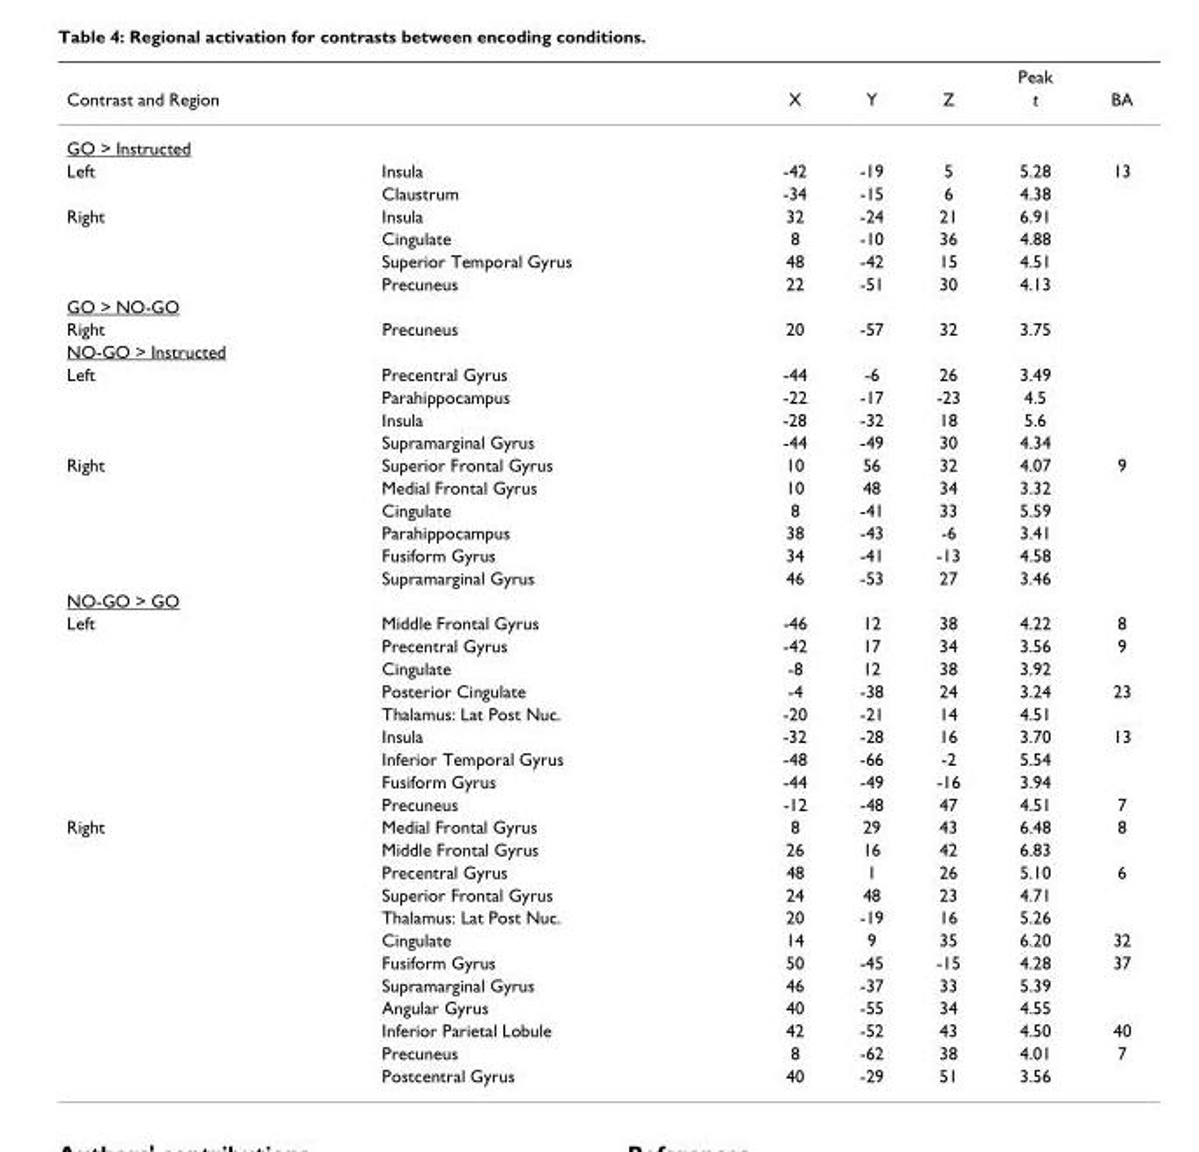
<table><thead><tr><td rowspan="2">Contrast and Region</td><td rowspan="2"></td><td rowspan="2">X</td><td rowspan="2">Y</td><td rowspan="2">Z</td><td rowspan="2">Peak t</td><td rowspan="2">BA</td></tr><tr></tr></thead><tbody><tr><td colspan="7">GO &gt; Instructed</td></tr><tr><td rowspan="2">Left</td><td>Insula</td><td>-42</td><td>-19</td><td>5</td><td>5.28</td><td>13</td></tr><tr><td>Claustrum</td><td>-34</td><td>-15</td><td>6</td><td>4.38</td><td></td></tr><tr><td rowspan="4">Right</td><td>Insula</td><td>32</td><td>-24</td><td>21</td><td>6.91</td><td></td></tr><tr><td>Cingulate</td><td>8</td><td>-10</td><td>36</td><td>4.88</td><td></td></tr><tr><td>Superior Temporal Gyrus</td><td>48</td><td>-42</td><td>15</td><td>4.51</td><td></td></tr><tr><td>Precuneus</td><td>22</td><td>-51</td><td>30</td><td>4.13</td><td></td></tr><tr><td colspan="7">GO &gt; NO-GO</td></tr><tr><td>Right</td><td>Precuneus</td><td>20</td><td>-57</td><td>32</td><td>3.75</td><td></td></tr><tr><td colspan="7">NO-GO &gt; Instructed</td></tr><tr><td rowspan="4">Left</td><td>Precentral Gyrus</td><td>-44</td><td>-6</td><td>26</td><td>3.49</td><td></td></tr><tr><td>Parahippocampus</td><td>-22</td><td>-17</td><td>-23</td><td>4.5</td><td></td></tr><tr><td>Insula</td><td>-28</td><td>-32</td><td>18</td><td>5.6</td><td></td></tr><tr><td>Supramarginal Gyrus</td><td>-44</td><td>-49</td><td>30</td><td>4.34</td><td></td></tr><tr><td rowspan="6">Right</td><td>Superior Frontal Gyrus</td><td>10</td><td>56</td><td>32</td><td>4.07</td><td>9</td></tr><tr><td>Medial Frontal Gyrus</td><td>10</td><td>48</td><td>34</td><td>3.32</td><td></td></tr><tr><td>Cingulate</td><td>8</td><td>-41</td><td>33</td><td>5.59</td><td></td></tr><tr><td>Parahippocampus</td><td>38</td><td>-43</td><td>-6</td><td>3.41</td><td></td></tr><tr><td>Fusiform Gyrus</td><td>34</td><td>-41</td><td>-13</td><td>4.58</td><td></td></tr><tr><td>Supramarginal Gyrus</td><td>46</td><td>-53</td><td>27</td><td>3.46</td><td></td></tr><tr><td colspan="7">NO-GO &gt; GO</td></tr><tr><td rowspan="9">Left</td><td>Middle Frontal Gyrus</td><td>-46</td><td>12</td><td>38</td><td>4.22</td><td>8</td></tr><tr><td>Precentral Gyrus</td><td>-42</td><td>17</td><td>34</td><td>3.56</td><td>9</td></tr><tr><td>Cingulate</td><td>-8</td><td>12</td><td>38</td><td>3.92</td><td></td></tr><tr><td>Posterior Cingulate</td><td>-4</td><td>-38</td><td>24</td><td>3.24</td><td>23</td></tr><tr><td>Thalamus: Lat Post Nuc.</td><td>-20</td><td>-21</td><td>14</td><td>4.51</td><td></td></tr><tr><td>Insula</td><td>-32</td><td>-28</td><td>16</td><td>3.70</td><td>13</td></tr><tr><td>Inferior Temporal Gyrus</td><td>-48</td><td>-66</td><td>-2</td><td>5.54</td><td></td></tr><tr><td>Fusiform Gyrus</td><td>-44</td><td>-49</td><td>-16</td><td>3.94</td><td></td></tr><tr><td>Precuneus</td><td>-12</td><td>-48</td><td>47</td><td>4.51</td><td>7</td></tr><tr><td rowspan="12">Right</td><td>Medial Frontal Gyrus</td><td>8</td><td>29</td><td>43</td><td>6.48</td><td>8</td></tr><tr><td>Middle Frontal Gyrus</td><td>26</td><td>16</td><td>42</td><td>6.83</td><td></td></tr><tr><td>Precentral Gyrus</td><td>48</td><td>1</td><td>26</td><td>5.10</td><td>6</td></tr><tr><td>Superior Frontal Gyrus</td><td>24</td><td>48</td><td>23</td><td>4.71</td><td></td></tr><tr><td>Thalamus: Lat Post Nuc.</td><td>20</td><td>-19</td><td>16</td><td>5.26</td><td></td></tr><tr><td>Cingulate</td><td>14</td><td>9</td><td>35</td><td>6.20</td><td>32</td></tr><tr><td>Fusiform Gyrus</td><td>50</td><td>-45</td><td>-15</td><td>4.28</td><td>37</td></tr><tr><td>Supramarginal Gyrus</td><td>46</td><td>-37</td><td>33</td><td>5.39</td><td></td></tr><tr><td>Angular Gyrus</td><td>40</td><td>-55</td><td>34</td><td>4.55</td><td></td></tr><tr><td>Inferior Parietal Lobule</td><td>42</td><td>-52</td><td>43</td><td>4.50</td><td>40</td></tr><tr><td>Precuneus</td><td>8</td><td>-62</td><td>38</td><td>4.01</td><td>7</td></tr><tr><td>Postcentral Gyrus</td><td>40</td><td>-29</td><td>51</td><td>3.56</td><td></td></tr></tbody></table>